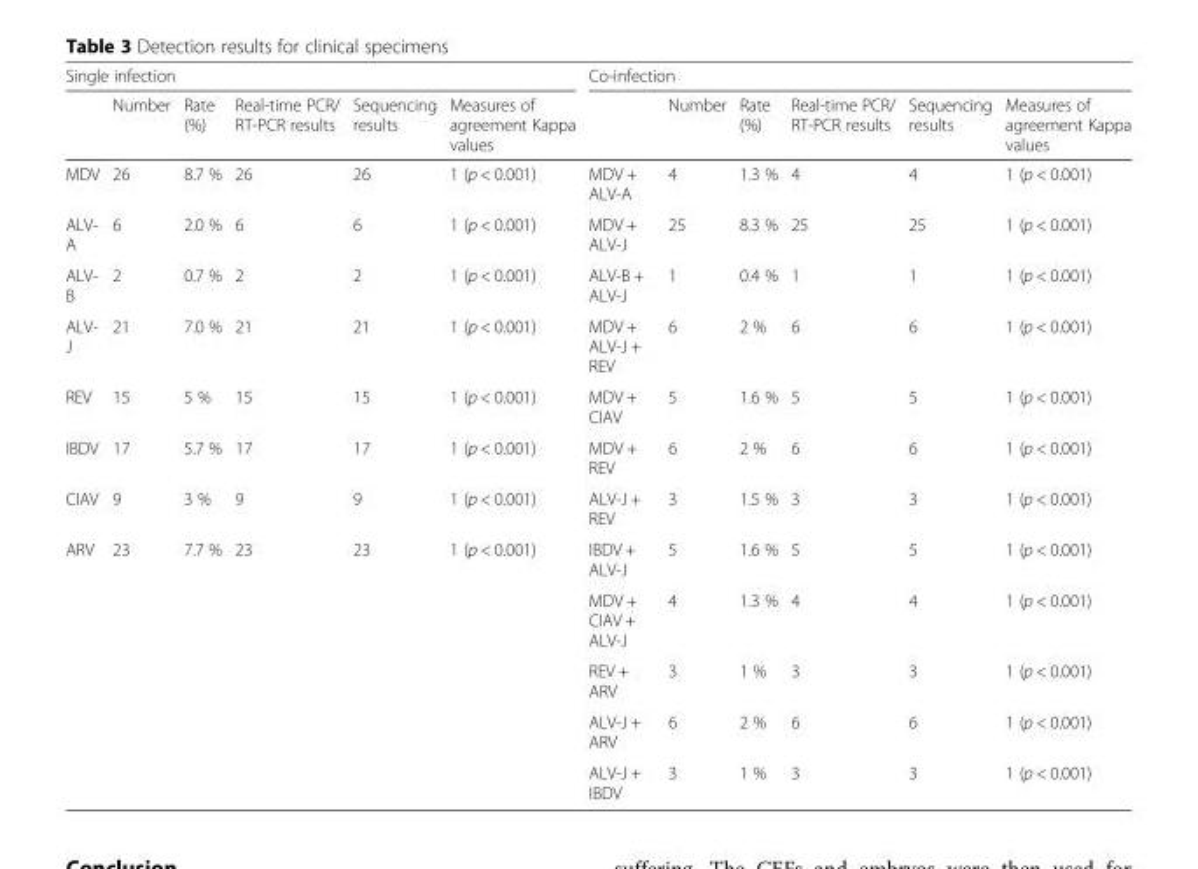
<table><thead><tr><td colspan="6">Single infection</td><td colspan="6">Co-infection</td></tr><tr><td></td><td>Number</td><td>Rate (%)</td><td>Real-time PCR/ RT-PCR results</td><td>Sequencing results</td><td>Measures of agreement Kappa values</td><td></td><td>Number</td><td>Rate (%)</td><td>Real-time PCR/ RT-PCR results</td><td>Sequencing results</td><td>Measures of agreement Kappa values</td></tr></thead><tbody><tr><td>MDV</td><td>26</td><td>8.7 %</td><td>26</td><td>26</td><td>1 (p &lt; 0.001)</td><td>MDV + ALV-A</td><td>4</td><td>1.3 %</td><td>4</td><td>4</td><td>1 (p &lt; 0.001)</td></tr><tr><td>ALV- A</td><td>6</td><td>2.0 %</td><td>6</td><td>6</td><td>1 (p &lt; 0.001)</td><td>MDV + ALV-J</td><td>25</td><td>8.3 %</td><td>25</td><td>25</td><td>1 (p &lt; 0.001)</td></tr><tr><td>ALV- B</td><td>2</td><td>0.7 %</td><td>2</td><td>2</td><td>1 (p &lt; 0.001)</td><td>ALV-B + ALV-J</td><td>1</td><td>0.4 %</td><td>1</td><td>1</td><td>1 (p &lt; 0.001)</td></tr><tr><td>ALV- J</td><td>21</td><td>7.0 %</td><td>21</td><td>21</td><td>1 (p &lt; 0.001)</td><td>MDV + ALV-J + REV</td><td>6</td><td>2 %</td><td>6</td><td>6</td><td>1 (p &lt; 0.001)</td></tr><tr><td>REV</td><td>15</td><td>5 %</td><td>15</td><td>15</td><td>1 (p &lt; 0.001)</td><td>MDV + CIAV</td><td>5</td><td>1.6 %</td><td>5</td><td>5</td><td>1 (p &lt; 0.001)</td></tr><tr><td>IBDV</td><td>17</td><td>5.7 %</td><td>17</td><td>17</td><td>1 (p &lt; 0.001)</td><td>MDV + REV</td><td>6</td><td>2 %</td><td>6</td><td>6</td><td>1 (p &lt; 0.001)</td></tr><tr><td>CIAV</td><td>9</td><td>3 %</td><td>9</td><td>9</td><td>1 (p &lt; 0.001)</td><td>ALV-J + REV</td><td>3</td><td>1.5 %</td><td>3</td><td>3</td><td>1 (p &lt; 0.001)</td></tr><tr><td rowspan="5">ARV</td><td>23</td><td>7.7 %</td><td>23</td><td>23</td><td>1 (p &lt; 0.001)</td><td>IBDV + ALV-J</td><td>5</td><td>1.6 %</td><td>5</td><td>5</td><td>1 (p &lt; 0.001)</td></tr><tr><td></td><td></td><td></td><td></td><td></td><td>MDV + CIAV + ALV-J</td><td>4</td><td>1.3 %</td><td>4</td><td>4</td><td>1 (p &lt; 0.001)</td></tr><tr><td></td><td></td><td></td><td></td><td></td><td>REV + ARV</td><td>3</td><td>1 %</td><td>3</td><td>3</td><td>1 (p &lt; 0.001)</td></tr><tr><td></td><td></td><td></td><td></td><td></td><td>ALV-J + ARV</td><td>6</td><td>2 %</td><td>6</td><td>6</td><td>1 (p &lt; 0.001)</td></tr><tr><td></td><td></td><td></td><td></td><td></td><td>ALV-J + IBDV</td><td>3</td><td>1 %</td><td>3</td><td>3</td><td>1 (p &lt; 0.001)</td></tr></tbody></table>